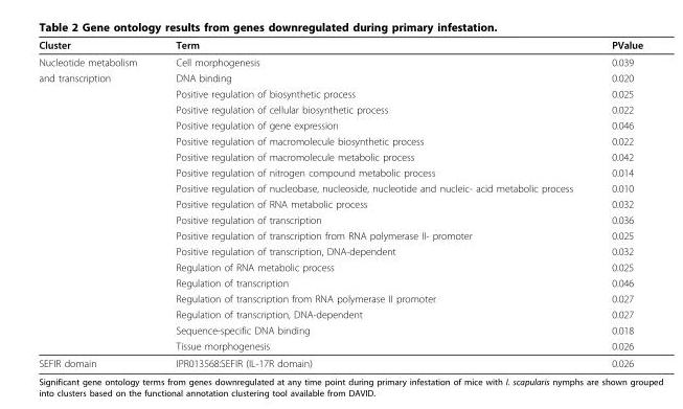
<table><thead><tr><td>Cluster</td><td>Term</td><td>PValue</td></tr></thead><tbody><tr><td>Nucleotide metabolism</td><td>Cell morphogenesis</td><td>0.039</td></tr><tr><td rowspan="18">and transcription</td><td>DNA binding</td><td>0.020</td></tr><tr><td>Positive regulation of biosynthetic process</td><td>0.025</td></tr><tr><td>Positive regulation of cellular biosynthetic process</td><td>0.022</td></tr><tr><td>Positive regulation of gene expression</td><td>0.046</td></tr><tr><td>Positive regulation of macromolecule biosynthetic process</td><td>0.022</td></tr><tr><td>Positive regulation of macromolecule metabolic process</td><td>0.042</td></tr><tr><td>Positive regulation of nitrogen compound metabolic process</td><td>0.014</td></tr><tr><td>Positive regulation of nucleobase, nucleoside, nucleotide and nucleic- acid metabolic process</td><td>0.010</td></tr><tr><td>Positive regulation of RNA metabolic process</td><td>0.032</td></tr><tr><td>Positive regulation of transcription</td><td>0.036</td></tr><tr><td>Positive regulation of transcription from RNA polymerase II- promoter</td><td>0.025</td></tr><tr><td>Positive regulation of transcription, DNA-dependent</td><td>0.032</td></tr><tr><td>Regulation of RNA metabolic process</td><td>0.025</td></tr><tr><td>Regulation of transcription</td><td>0.046</td></tr><tr><td>Regulation of transcription from RNA polymerase II promoter</td><td>0.027</td></tr><tr><td>Regulation of transcription, DNA-dependent</td><td>0.027</td></tr><tr><td>Sequence-specific DNA binding</td><td>0.018</td></tr><tr><td>Tissue morphogenesis</td><td>0.026</td></tr><tr><td>SEFIR domain</td><td>IPR013568:SEFIR (IL-17R domain)</td><td>0.026</td></tr></tbody></table>